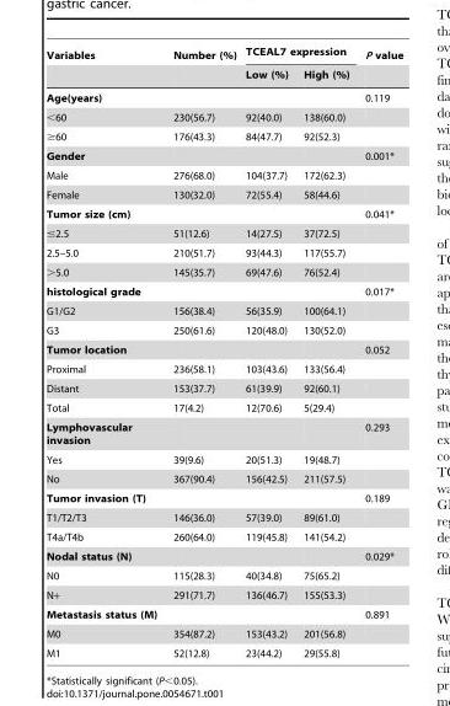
<table><thead><tr><td rowspan="2">Variables</td><td rowspan="2">Number (%)</td><td colspan="2">TCEAL7 expression</td><td rowspan="2">P value</td></tr><tr><td>Low (%)</td><td>High (%)</td></tr></thead><tbody><tr><td>Age(years)</td><td></td><td></td><td></td><td>0.119</td></tr><tr><td>&lt;60</td><td>230(56.7)</td><td>92(40.0)</td><td>138(60.0)</td><td></td></tr><tr><td>≥60</td><td>176(43.3)</td><td>84(47.7)</td><td>92(52.3)</td><td></td></tr><tr><td>Gender</td><td></td><td></td><td></td><td>0.001*</td></tr><tr><td>Male</td><td>276(68.0)</td><td>104(37.7)</td><td>172(62.3)</td><td></td></tr><tr><td>Female</td><td>130(32.0)</td><td>72(55.4)</td><td>58(44.6)</td><td></td></tr><tr><td>Tumor size (cm)</td><td></td><td></td><td></td><td>0.041*</td></tr><tr><td>≤2.5</td><td>51(12.6)</td><td>14(27.5)</td><td>37(72.5)</td><td></td></tr><tr><td>2.5–5.0</td><td>210(51.7)</td><td>93(44.3)</td><td>117(55.7)</td><td></td></tr><tr><td>&gt;5.0</td><td>145(35.7)</td><td>69(47.6)</td><td>76(52.4)</td><td></td></tr><tr><td>histological grade</td><td></td><td></td><td></td><td>0.017*</td></tr><tr><td>G1/G2</td><td>156(38.4)</td><td>56(35.9)</td><td>100(64.1)</td><td></td></tr><tr><td>G3</td><td>250(61.6)</td><td>120(48.0)</td><td>130(52.0)</td><td></td></tr><tr><td>Tumor location</td><td></td><td></td><td></td><td>0.052</td></tr><tr><td>Proximal</td><td>236(58.1)</td><td>103(43.6)</td><td>133(56.4)</td><td></td></tr><tr><td>Distant</td><td>153(37.7)</td><td>61(39.9)</td><td>92(60.1)</td><td></td></tr><tr><td>Total</td><td>17(4.2)</td><td>12(70.6)</td><td>5(29.4)</td><td></td></tr><tr><td>Lymphovascular invasion</td><td></td><td></td><td></td><td>0.293</td></tr><tr><td>Yes</td><td>39(9.6)</td><td>20(51.3)</td><td>19(48.7)</td><td></td></tr><tr><td>No</td><td>367(90.4)</td><td>156(42.5)</td><td>211(57.5)</td><td></td></tr><tr><td>Tumor invasion (T)</td><td></td><td></td><td></td><td>0.189</td></tr><tr><td>T1/T2/T3</td><td>146(36.0)</td><td>57(39.0)</td><td>89(61.0)</td><td></td></tr><tr><td>T4a/T4b</td><td>260(64.0)</td><td>119(45.8)</td><td>141(54.2)</td><td></td></tr><tr><td>Nodal status (N)</td><td></td><td></td><td></td><td>0.029*</td></tr><tr><td>N0</td><td>115(28.3)</td><td>40(34.8)</td><td>75(65.2)</td><td></td></tr><tr><td>N+</td><td>291(71.7)</td><td>136(46.7)</td><td>155(53.3)</td><td></td></tr><tr><td>Metastasis status (M)</td><td></td><td></td><td></td><td>0.891</td></tr><tr><td>M0</td><td>354(87.2)</td><td>153(43.2)</td><td>201(56.8)</td><td></td></tr><tr><td>M1</td><td>52(12.8)</td><td>23(44.2)</td><td>29(55.8)</td><td></td></tr></tbody></table>